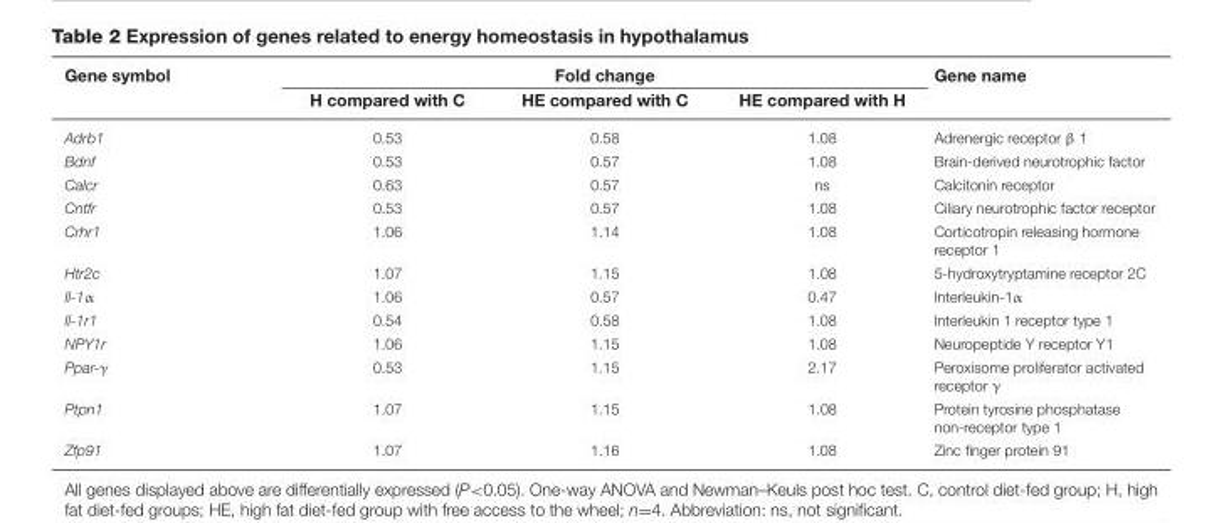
<table><thead><tr><td rowspan="2">Gene symbol</td><td colspan="3">Fold change</td><td rowspan="2">Gene name</td></tr><tr><td>H compared with C</td><td>HE compared with C</td><td>HE compared with H</td></tr></thead><tbody><tr><td>Adrb1</td><td>0.53</td><td>0.58</td><td>1.08</td><td>Adrenergic receptor β 1</td></tr><tr><td>Bdnf</td><td>0.53</td><td>0.57</td><td>1.08</td><td>Brain-derived neurotrophic factor</td></tr><tr><td>Calcr</td><td>0.63</td><td>0.57</td><td>ns</td><td>Calcitonin receptor</td></tr><tr><td>Cntfr</td><td>0.53</td><td>0.57</td><td>1.08</td><td>Ciliary neurotrophic factor receptor</td></tr><tr><td>Crhr1</td><td>1.06</td><td>1.14</td><td>1.08</td><td>Corticotropin releasing hormone receptor 1</td></tr><tr><td>Htr2c</td><td>1.07</td><td>1.15</td><td>1.08</td><td>5-hydroxytryptamine receptor 2C</td></tr><tr><td>Il-1α</td><td>1.06</td><td>0.57</td><td>0.47</td><td>Interleukin-1α</td></tr><tr><td>Il-1r1</td><td>0.54</td><td>0.58</td><td>1.08</td><td>Interleukin 1 receptor type 1</td></tr><tr><td>NPY1r</td><td>1.06</td><td>1.15</td><td>1.08</td><td>Neuropeptide Y receptor Y1</td></tr><tr><td>Ppar-γ</td><td>0.53</td><td>1.15</td><td>2.17</td><td>Peroxisome proliferator activated receptor γ</td></tr><tr><td>Ptpn1</td><td>1.07</td><td>1.15</td><td>1.08</td><td>Protein tyrosine phosphatase non-receptor type 1</td></tr><tr><td>Zfp91</td><td>1.07</td><td>1.16</td><td>1.08</td><td>Zinc finger protein 91</td></tr></tbody></table>